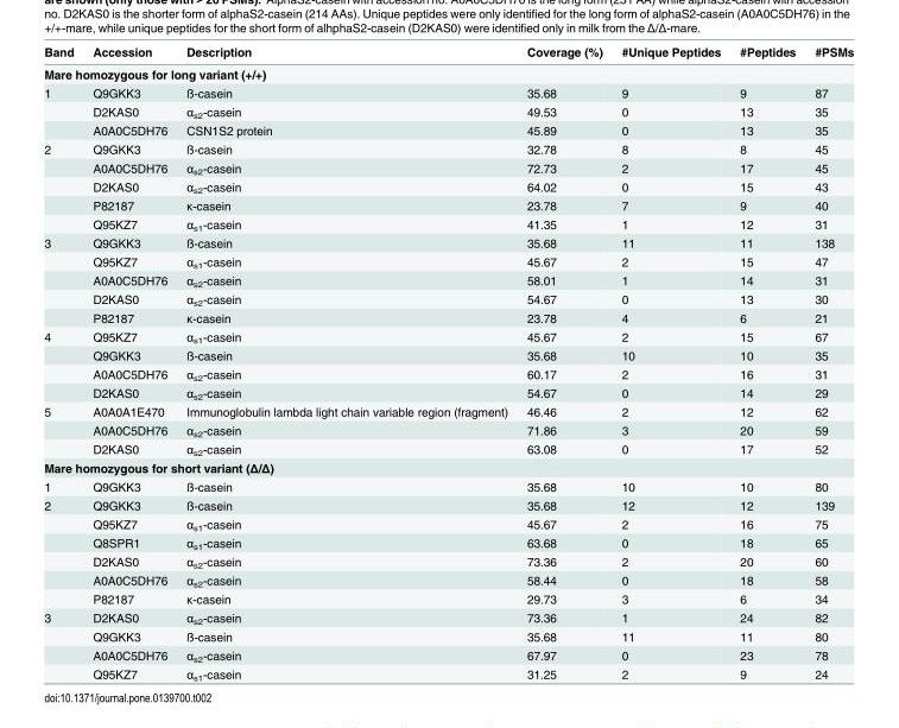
<table><thead><tr><td>Band</td><td>Accession</td><td>Description</td><td>Coverage (%)</td><td>#Unique Peptides</td><td>#Peptides</td><td>#PSMs</td></tr></thead><tbody><tr><td colspan="7">Mare homozygous for long variant (+/+)</td></tr><tr><td rowspan="3">1</td><td>Q9GKK3</td><td>ß-casein</td><td>35.68</td><td>9</td><td>9</td><td>87</td></tr><tr><td>D2KAS0</td><td>α<sub>s2</sub>-casein</td><td>49.53</td><td>0</td><td>13</td><td>35</td></tr><tr><td>A0A0C5DH76</td><td>CSN1S2 protein</td><td>45.89</td><td>0</td><td>13</td><td>35</td></tr><tr><td rowspan="5">2</td><td>Q9GKK3</td><td>ß-casein</td><td>32.78</td><td>8</td><td>8</td><td>45</td></tr><tr><td>A0A0C5DH76</td><td>α<sub>s2</sub>-casein</td><td>72.73</td><td>2</td><td>17</td><td>45</td></tr><tr><td>D2KAS0</td><td>α<sub>s2</sub>-casein</td><td>64.02</td><td>0</td><td>15</td><td>43</td></tr><tr><td>P82187</td><td>κ-casein</td><td>23.78</td><td>7</td><td>9</td><td>40</td></tr><tr><td>Q95KZ7</td><td>α<sub>s1</sub>-casein</td><td>41.35</td><td>1</td><td>12</td><td>31</td></tr><tr><td rowspan="5">3</td><td>Q9GKK3</td><td>ß-casein</td><td>35.68</td><td>11</td><td>11</td><td>138</td></tr><tr><td>Q95KZ7</td><td>α<sub>s1</sub>-casein</td><td>45.67</td><td>2</td><td>15</td><td>47</td></tr><tr><td>A0A0C5DH76</td><td>α<sub>s2</sub>-casein</td><td>58.01</td><td>1</td><td>14</td><td>31</td></tr><tr><td>D2KAS0</td><td>α<sub>s2</sub>-casein</td><td>54.67</td><td>0</td><td>13</td><td>30</td></tr><tr><td>P82187</td><td>κ-casein</td><td>23.78</td><td>4</td><td>6</td><td>21</td></tr><tr><td rowspan="4">4</td><td>Q95KZ7</td><td>α<sub>s1</sub>-casein</td><td>45.67</td><td>2</td><td>15</td><td>67</td></tr><tr><td>Q9GKK3</td><td>ß-casein</td><td>35.68</td><td>10</td><td>10</td><td>35</td></tr><tr><td>A0A0C5DH76</td><td>α<sub>s2</sub>-casein</td><td>60.17</td><td>2</td><td>16</td><td>31</td></tr><tr><td>D2KAS0</td><td>α<sub>s2</sub>-casein</td><td>54.67</td><td>0</td><td>14</td><td>29</td></tr><tr><td rowspan="3">5</td><td>A0A0A1E470</td><td>Immunoglobulin lambda light chain variable region (fragment)</td><td>46.46</td><td>2</td><td>12</td><td>62</td></tr><tr><td>A0A0C5DH76</td><td>α<sub>s2</sub>-casein</td><td>71.86</td><td>3</td><td>20</td><td>59</td></tr><tr><td>D2KAS0</td><td>α<sub>s2</sub>-casein</td><td>63.08</td><td>0</td><td>17</td><td>52</td></tr><tr><td colspan="7">Mare homozygous for short variant (Δ/Δ)</td></tr><tr><td>1</td><td>Q9GKK3</td><td>ß-casein</td><td>35.68</td><td>10</td><td>10</td><td>80</td></tr><tr><td rowspan="6">2</td><td>Q9GKK3</td><td>ß-casein</td><td>35.68</td><td>12</td><td>12</td><td>139</td></tr><tr><td>Q95KZ7</td><td>α<sub>s1</sub>-casein</td><td>45.67</td><td>2</td><td>16</td><td>75</td></tr><tr><td>Q8SPR1</td><td>α<sub>s1</sub>-casein</td><td>63.68</td><td>0</td><td>18</td><td>65</td></tr><tr><td>D2KAS0</td><td>α<sub>s2</sub>-casein</td><td>73.36</td><td>2</td><td>20</td><td>60</td></tr><tr><td>A0A0C5DH76</td><td>α<sub>s2</sub>-casein</td><td>58.44</td><td>0</td><td>18</td><td>58</td></tr><tr><td>P82187</td><td>κ-casein</td><td>29.73</td><td>3</td><td>6</td><td>34</td></tr><tr><td rowspan="4">3</td><td>D2KAS0</td><td>α<sub>s2</sub>-casein</td><td>73.36</td><td>1</td><td>24</td><td>82</td></tr><tr><td>Q9GKK3</td><td>ß-casein</td><td>35.68</td><td>11</td><td>11</td><td>80</td></tr><tr><td>A0A0C5DH76</td><td>α<sub>s2</sub>-casein</td><td>67.97</td><td>0</td><td>23</td><td>78</td></tr><tr><td>Q95KZ7</td><td>α<sub>s1</sub>-casein</td><td>31.25</td><td>2</td><td>9</td><td>24</td></tr></tbody></table>